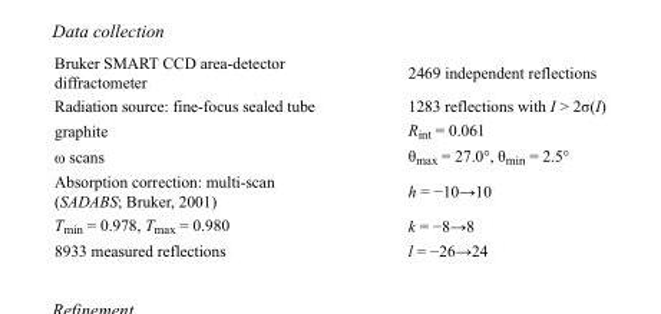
<table><tbody><tr><td>Bruker SMART CCD area-detector diffractometer</td><td>2469 independent reflections</td></tr><tr><td>Radiation source: fine-focus sealed tube</td><td>1283 reflections with I &gt; 2σ(I)</td></tr><tr><td>graphite</td><td>R<sub>int</sub> = 0.061</td></tr><tr><td>ω scans</td><td>θ<sub>max</sub> = 27.0°, θ<sub>min</sub> = 2.5°</td></tr><tr><td>Absorption correction: multi-scan (SADABS; Bruker, 2001)</td><td>h = −10→10</td></tr><tr><td>T<sub>min</sub> = 0.978, T<sub>max</sub> = 0.980</td><td>k = −8→8</td></tr><tr><td>8933 measured reflections</td><td>l = −26→24</td></tr></tbody></table>